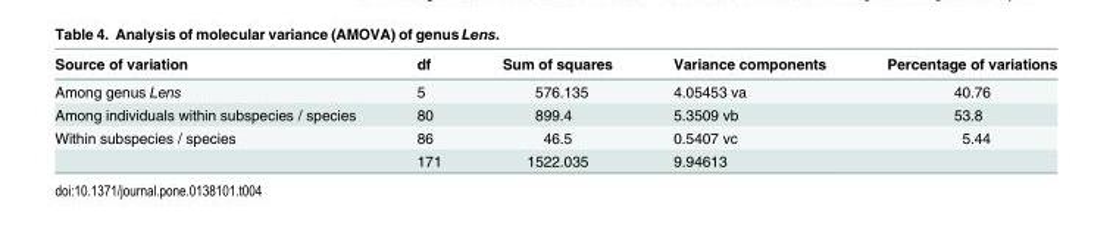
<table><thead><tr><td>Source of variation</td><td>df</td><td>Sum of squares</td><td>Variance components</td><td>Percentage of variations</td></tr></thead><tbody><tr><td>Among genus Lens</td><td>5</td><td>576.135</td><td>4.05453 va</td><td>40.76</td></tr><tr><td>Among individuals within subspecies / species</td><td>80</td><td>899.4</td><td>5.3509 vb</td><td>53.8</td></tr><tr><td rowspan="2">Within subspecies / species</td><td>86</td><td>46.5</td><td>0.5407 vc</td><td>5.44</td></tr><tr><td>171</td><td>1522.035</td><td>9.94613</td><td></td></tr></tbody></table>